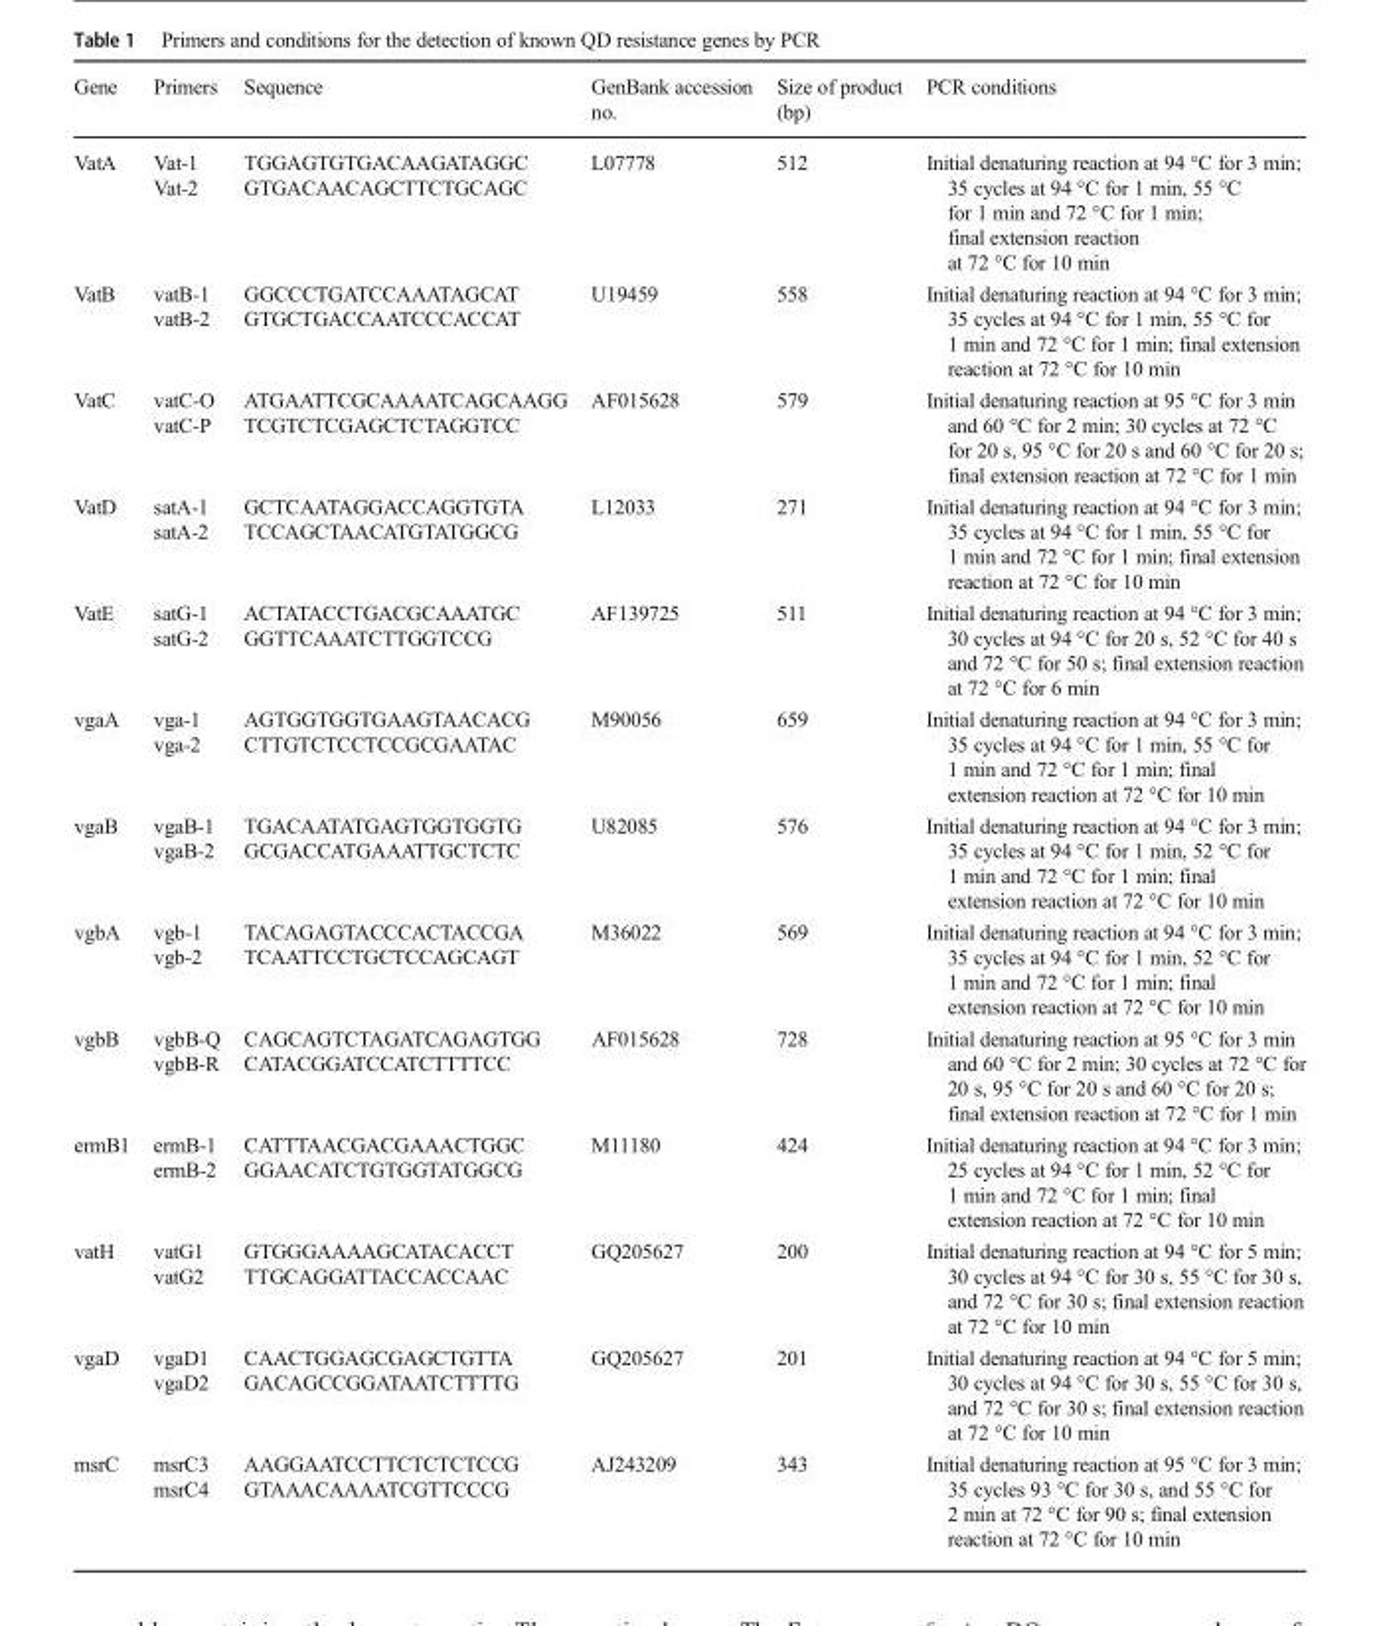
<table><thead><tr><td>Gene</td><td>Primers</td><td>Sequence</td><td>GenBank accession no.</td><td>Size of product (bp)</td><td>PCR conditions</td></tr></thead><tbody><tr><td rowspan="2">VatA</td><td>Vat-1</td><td>TGGAGTGTGACAAGATAGGC</td><td rowspan="2">L07778</td><td rowspan="2">512</td><td rowspan="2">Initial denaturing reaction at 94 °C for 3 min; 35 cycles at 94 °C for 1 min, 55 °C for 1 min and 72 °C for 1 min; final extension reaction at 72 °C for 10 min</td></tr><tr><td>Vat-2</td><td>GTGACAACAGCTTCTGCAGC</td></tr><tr><td rowspan="2">VatB</td><td>vatB-1</td><td>GGCCCTGATCCAAATAGCAT</td><td rowspan="2">U19459</td><td rowspan="2">558</td><td rowspan="2">Initial denaturing reaction at 94 °C for 3 min; 35 cycles at 94 °C for 1 min, 55 °C for 1 min and 72 °C for 1 min; final extension reaction at 72 °C for 10 min</td></tr><tr><td>vatB-2</td><td>GTGCTGACCAATCCCACCAT</td></tr><tr><td rowspan="2">VatC</td><td>vatC-O</td><td>ATGAATTCGCAAAATCAGCAAGG</td><td rowspan="2">AF015628</td><td rowspan="2">579</td><td rowspan="2">Initial denaturing reaction at 95 °C for 3 min and 60 °C for 2 min; 30 cycles at 72 °C for 20 s, 95 °C for 20 s and 60 °C for 20 s; final extension reaction at 72 °C for 1 min</td></tr><tr><td>vatC-P</td><td>TCGTCTCGAGCTCTAGGTCC</td></tr><tr><td rowspan="2">VatD</td><td>satA-1</td><td>GCTCAATAGGACCAGGTGTA</td><td rowspan="2">L12033</td><td rowspan="2">271</td><td rowspan="2">Initial denaturing reaction at 94 °C for 3 min; 35 cycles at 94 °C for 1 min, 55 °C for 1 min and 72 °C for 1 min; final extension reaction at 72 °C for 10 min</td></tr><tr><td>satA-2</td><td>TCCAGCTAACATGTATGGCG</td></tr><tr><td rowspan="2">VatE</td><td>satG-1</td><td>ACTATACCTGACGCAAATGC</td><td rowspan="2">AF139725</td><td rowspan="2">511</td><td rowspan="2">Initial denaturing reaction at 94 °C for 3 min; 30 cycles at 94 °C for 20 s, 52 °C for 40 s and 72 °C for 50 s; final extension reaction at 72 °C for 6 min</td></tr><tr><td>satG-2</td><td>GGTTCAAATCTTGGTCCG</td></tr><tr><td rowspan="2">vgaA</td><td>vga-1</td><td>AGTGGTGGTGAAGTAACACG</td><td rowspan="2">M90056</td><td rowspan="2">659</td><td rowspan="2">Initial denaturing reaction at 94 °C for 3 min; 35 cycles at 94 °C for 1 min, 55 °C for 1 min and 72 °C for 1 min; final extension reaction at 72 °C for 10 min</td></tr><tr><td>vga-2</td><td>CTTGTCTCCTCCGCGAATAC</td></tr><tr><td rowspan="2">vgaB</td><td>vgaB-1</td><td>TGACAATATGAGTGGTGGTG</td><td rowspan="2">U82085</td><td rowspan="2">576</td><td rowspan="2">Initial denaturing reaction at 94 °C for 3 min; 35 cycles at 94 °C for 1 min, 52 °C for 1 min and 72 °C for 1 min; final extension reaction at 72 °C for 10 min</td></tr><tr><td>vgaB-2</td><td>GCGACCATGAAATTGCTCTC</td></tr><tr><td rowspan="2">vgbA</td><td>vgb-1</td><td>TACAGAGTACCCACTACCGA</td><td rowspan="2">M36022</td><td rowspan="2">569</td><td rowspan="2">Initial denaturing reaction at 94 °C for 3 min; 35 cycles at 94 °C for 1 min, 52 °C for 1 min and 72 °C for 1 min; final extension reaction at 72 °C for 10 min</td></tr><tr><td>vgb-2</td><td>TCAATTCCTGCTCCAGCAGT</td></tr><tr><td rowspan="2">vgbB</td><td>vgbB-Q</td><td>CAGCAGTCTAGATCAGAGTGG</td><td rowspan="2">AF015628</td><td rowspan="2">728</td><td rowspan="2">Initial denaturing reaction at 95 °C for 3 min and 60 °C for 2 min; 30 cycles at 72 °C for 20 s, 95 °C for 20 s and 60 °C for 20 s; final extension reaction at 72 °C for 1 min</td></tr><tr><td>vgbB-R</td><td>CATACGGATCCATCTTTTCC</td></tr><tr><td rowspan="2">ermB1</td><td>ermB-1</td><td>CATTTAACGACGAAACTGGC</td><td rowspan="2">M11180</td><td rowspan="2">424</td><td rowspan="2">Initial denaturing reaction at 94 °C for 3 min; 25 cycles at 94 °C for 1 min, 52 °C for 1 min and 72 °C for 1 min; final extension reaction at 72 °C for 10 min</td></tr><tr><td>ermB-2</td><td>GGAACATCTGTGGTATGGCG</td></tr><tr><td rowspan="2">vatH</td><td>vatG1</td><td>GTGGGAAAAGCATACACCT</td><td rowspan="2">GQ205627</td><td rowspan="2">200</td><td rowspan="2">Initial denaturing reaction at 94 °C for 5 min; 30 cycles at 94 °C for 30 s, 55 °C for 30 s, and 72 °C for 30 s; final extension reaction at 72 °C for 10 min</td></tr><tr><td>vatG2</td><td>TTGCAGGATTACCACCAAC</td></tr><tr><td rowspan="2">vgaD</td><td>vgaD1</td><td>CAACTGGAGCGAGCTGTTA</td><td rowspan="2">GQ205627</td><td rowspan="2">201</td><td rowspan="2">Initial denaturing reaction at 94 °C for 5 min; 30 cycles at 94 °C for 30 s, 55 °C for 30 s, and 72 °C for 30 s; final extension reaction at 72 °C for 10 min</td></tr><tr><td>vgaD2</td><td>GACAGCCGGATAATCTTTTG</td></tr><tr><td rowspan="2">msrC</td><td>msrC3</td><td>AAGGAATCCTTCTCTCTCCG</td><td rowspan="2">AJ243209</td><td rowspan="2">343</td><td rowspan="2">Initial denaturing reaction at 95 °C for 3 min; 35 cycles 93 °C for 30 s, and 55 °C for 2 min at 72 °C for 90 s; final extension reaction at 72 °C for 10 min</td></tr><tr><td>msrC4</td><td>GTAAACAAAATCGTTCCCG</td></tr></tbody></table>